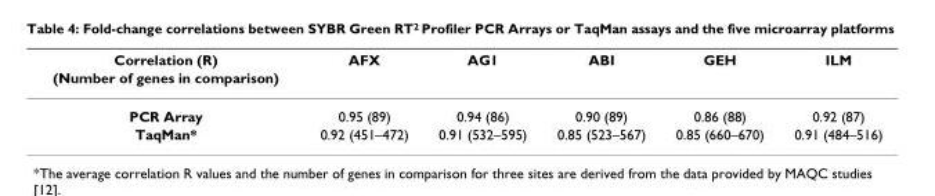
<table><thead><tr><td rowspan="2">Correlation (R) (Number of genes in comparison)</td><td rowspan="2">AFX</td><td rowspan="2">AG1</td><td rowspan="2">ABI</td><td rowspan="2">GEH</td><td rowspan="2">ILM</td></tr><tr></tr></thead><tbody><tr><td>PCR Array</td><td>0.95 (89)</td><td>0.94 (86)</td><td>0.90 (89)</td><td>0.86 (88)</td><td>0.92 (87)</td></tr><tr><td>TaqMan*</td><td>0.92 (451–472)</td><td>0.91 (532–595)</td><td>0.85 (523–567)</td><td>0.85 (660–670)</td><td>0.91 (484–516)</td></tr></tbody></table>